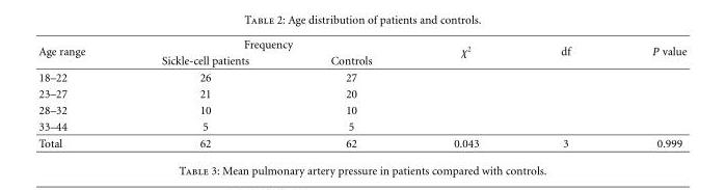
<table><thead><tr><td rowspan="2">Age range</td><td colspan="2">Frequency</td><td rowspan="2">χ<sup>2</sup></td><td rowspan="2">df</td><td rowspan="2">P value</td></tr><tr><td>Sickle-cell patients</td><td>Controls</td></tr></thead><tbody><tr><td>18–22</td><td>26</td><td>27</td><td></td><td></td><td></td></tr><tr><td>23–27</td><td>21</td><td>20</td><td></td><td></td><td></td></tr><tr><td>28–32</td><td>10</td><td>10</td><td></td><td></td><td></td></tr><tr><td>33–44</td><td>5</td><td>5</td><td></td><td></td><td></td></tr><tr><td>Total</td><td>62</td><td>62</td><td>0.043</td><td>3</td><td>0.999</td></tr></tbody></table>